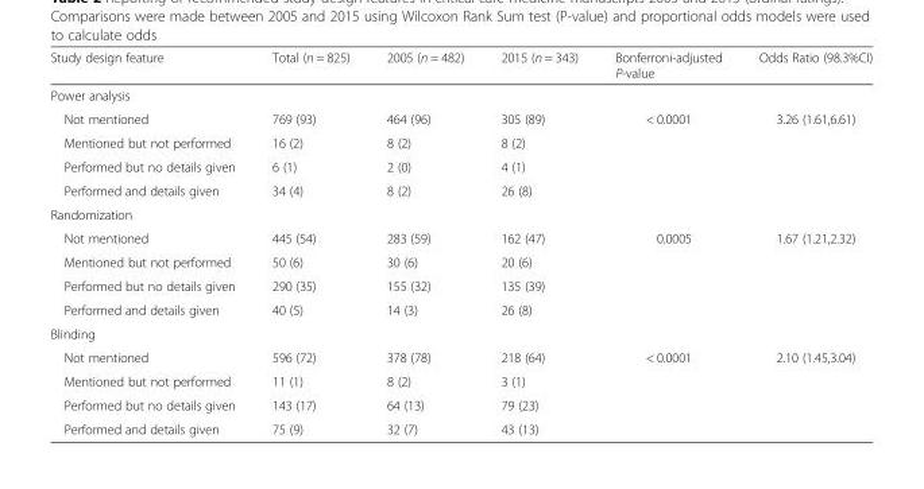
<table><thead><tr><td>Study design feature</td><td>Total (n = 825)</td><td>2005 (n = 482)</td><td>2015 (n = 343)</td><td>Bonferroni-adjusted P-value</td><td>Odds Ratio (98.3%CI)</td></tr></thead><tbody><tr><td colspan="6">Power analysis</td></tr><tr><td>Not mentioned</td><td>769 (93)</td><td>464 (96)</td><td>305 (89)</td><td rowspan="4">&lt; 0.0001</td><td rowspan="4">3.26 (1.61,6.61)</td></tr><tr><td>Mentioned but not performed</td><td>16 (2)</td><td>8 (2)</td><td>8 (2)</td></tr><tr><td>Performed but no details given</td><td>6 (1)</td><td>2 (0)</td><td>4 (1)</td></tr><tr><td>Performed and details given</td><td>34 (4)</td><td>8 (2)</td><td>26 (8)</td></tr><tr><td colspan="6">Randomization</td></tr><tr><td>Not mentioned</td><td>445 (54)</td><td>283 (59)</td><td>162 (47)</td><td rowspan="4">0.0005</td><td rowspan="4">1.67 (1.21,2.32)</td></tr><tr><td>Mentioned but not performed</td><td>50 (6)</td><td>30 (6)</td><td>20 (6)</td></tr><tr><td>Performed but no details given</td><td>290 (35)</td><td>155 (32)</td><td>135 (39)</td></tr><tr><td>Performed and details given</td><td>40 (5)</td><td>14 (3)</td><td>26 (8)</td></tr><tr><td colspan="6">Blinding</td></tr><tr><td>Not mentioned</td><td>596 (72)</td><td>378 (78)</td><td>218 (64)</td><td rowspan="4">&lt; 0.0001</td><td rowspan="4">2.10 (1.45,3.04)</td></tr><tr><td>Mentioned but not performed</td><td>11 (1)</td><td>8 (2)</td><td>3 (1)</td></tr><tr><td>Performed but no details given</td><td>143 (17)</td><td>64 (13)</td><td>79 (23)</td></tr><tr><td>Performed and details given</td><td>75 (9)</td><td>32 (7)</td><td>43 (13)</td></tr></tbody></table>